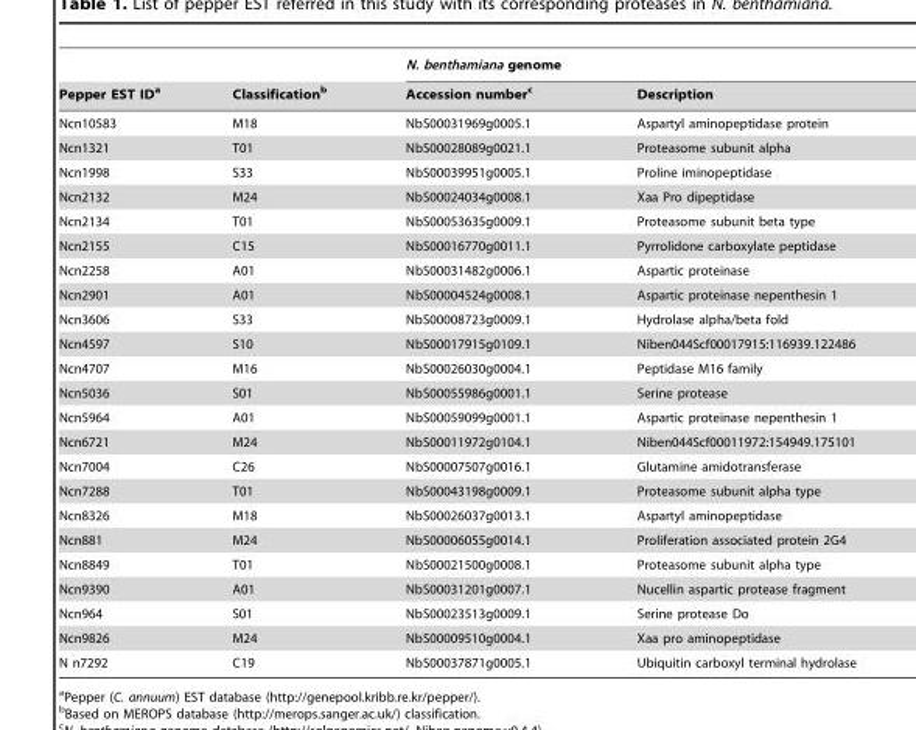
<table><thead><tr><td rowspan="2">Pepper EST ID<sup>a</sup></td><td rowspan="2">Classification<sup>b</sup></td><td colspan="2">N. benthamiana genome</td></tr><tr><td>Accession number<sup>c</sup></td><td>Description</td></tr></thead><tbody><tr><td>Ncn10583</td><td>M18</td><td>NbS00031969g0005.1</td><td>Aspartyl aminopeptidase protein</td></tr><tr><td>Ncn1321</td><td>T01</td><td>NbS00028089g0021.1</td><td>Proteasome subunit alpha</td></tr><tr><td>Ncn1998</td><td>S33</td><td>NbS00039951g0005.1</td><td>Proline iminopeptidase</td></tr><tr><td>Ncn2132</td><td>M24</td><td>NbS00024034g0008.1</td><td>Xaa Pro dipeptidase</td></tr><tr><td>Ncn2134</td><td>T01</td><td>NbS00053635g0009.1</td><td>Proteasome subunit beta type</td></tr><tr><td>Ncn2155</td><td>C15</td><td>NbS00016770g0011.1</td><td>Pyrrolidone carboxylate peptidase</td></tr><tr><td>Ncn2258</td><td>A01</td><td>NbS00031482g0006.1</td><td>Aspartic proteinase</td></tr><tr><td>Ncn2901</td><td>A01</td><td>NbS00004524g0008.1</td><td>Aspartic proteinase nepenthesin 1</td></tr><tr><td>Ncn3606</td><td>S33</td><td>NbS00008723g0009.1</td><td>Hydrolase alpha/beta fold</td></tr><tr><td>Ncn4597</td><td>S10</td><td>NbS00017915g0109.1</td><td>Niben044Scf00017915:116939.122486</td></tr><tr><td>Ncn4707</td><td>M16</td><td>NbS00026030g0004.1</td><td>Peptidase M16 family</td></tr><tr><td>Ncn5036</td><td>S01</td><td>NbS00055986g0001.1</td><td>Serine protease</td></tr><tr><td>Ncn5964</td><td>A01</td><td>NbS00059099g0001.1</td><td>Aspartic proteinase nepenthesin 1</td></tr><tr><td>Ncn6721</td><td>M24</td><td>NbS00011972g0104.1</td><td>Niben044Scf00011972:154949.175101</td></tr><tr><td>Ncn7004</td><td>C26</td><td>NbS00007507g0016.1</td><td>Glutamine amidotransferase</td></tr><tr><td>Ncn7288</td><td>T01</td><td>NbS00043198g0009.1</td><td>Proteasome subunit alpha type</td></tr><tr><td>Ncn8326</td><td>M18</td><td>NbS00026037g0013.1</td><td>Aspartyl aminopeptidase</td></tr><tr><td>Ncn881</td><td>M24</td><td>NbS00006055g0014.1</td><td>Proliferation associated protein 2G4</td></tr><tr><td>Ncn8849</td><td>T01</td><td>NbS00021500g0008.1</td><td>Proteasome subunit alpha type</td></tr><tr><td>Ncn9390</td><td>A01</td><td>NbS00031201g0007.1</td><td>Nucellin aspartic protease fragment</td></tr><tr><td>Ncn964</td><td>S01</td><td>NbS00023513g0009.1</td><td>Serine protease Do</td></tr><tr><td>Ncn9826</td><td>M24</td><td>NbS00009510g0004.1</td><td>Xaa pro aminopeptidase</td></tr><tr><td>N n7292</td><td>C19</td><td>NbS00037871g0005.1</td><td>Ubiquitin carboxyl terminal hydrolase</td></tr></tbody></table>